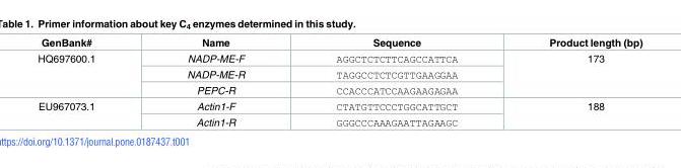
<table><thead><tr><td>GenBank#</td><td>Name</td><td>Sequence</td><td>Product length (bp)</td></tr></thead><tbody><tr><td rowspan="3">HQ697600.1</td><td>NADP-ME-F</td><td>AGGCTCTCTTCAGCCATTCA</td><td rowspan="3">173</td></tr><tr><td>NADP-ME-R</td><td>TAGGCCTCTCGTTGAAGGAA</td></tr><tr><td>PEPC-R</td><td>CCACCCATCCAAGAAGAGAA</td></tr><tr><td rowspan="2">EU967073.1</td><td>Actin1-F</td><td>CTATGTTCCCTGGCATTGCT</td><td rowspan="2">188</td></tr><tr><td>Actin1-R</td><td>GGGCCCAAAGAATTAGAAGC</td></tr></tbody></table>